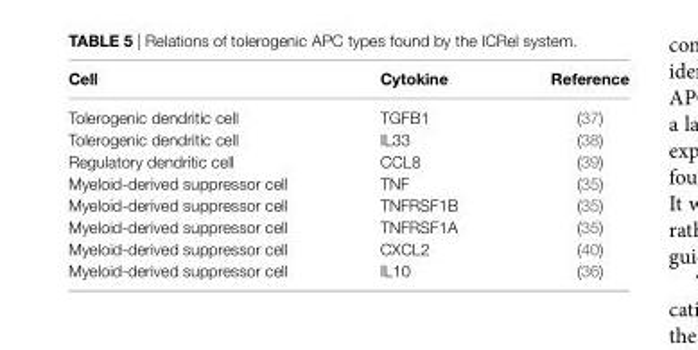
<table><thead><tr><td>cell</td><td>cytokine</td><td>reference</td></tr></thead><tbody><tr><td>Tolerogenic dendritic cell</td><td>TGFB1</td><td>(37)</td></tr><tr><td>Tolerogenic dendritic cell</td><td>IL33</td><td>(38)</td></tr><tr><td>Regulatory dendritic cell</td><td>CCL8</td><td>(39)</td></tr><tr><td>Myeloid-derived suppressor cell</td><td>TNF</td><td>(35)</td></tr><tr><td>Myeloid-derived suppressor cell</td><td>TNFRSF1B</td><td>(35)</td></tr><tr><td>Myeloid-derived suppressor cell</td><td>TNFRSF1A</td><td>(35)</td></tr><tr><td>Myeloid-derived suppressor cell</td><td>CXCL2</td><td>(40)</td></tr><tr><td>Myeloid-derived suppressor cell</td><td>IL10</td><td>(36)</td></tr></tbody></table>